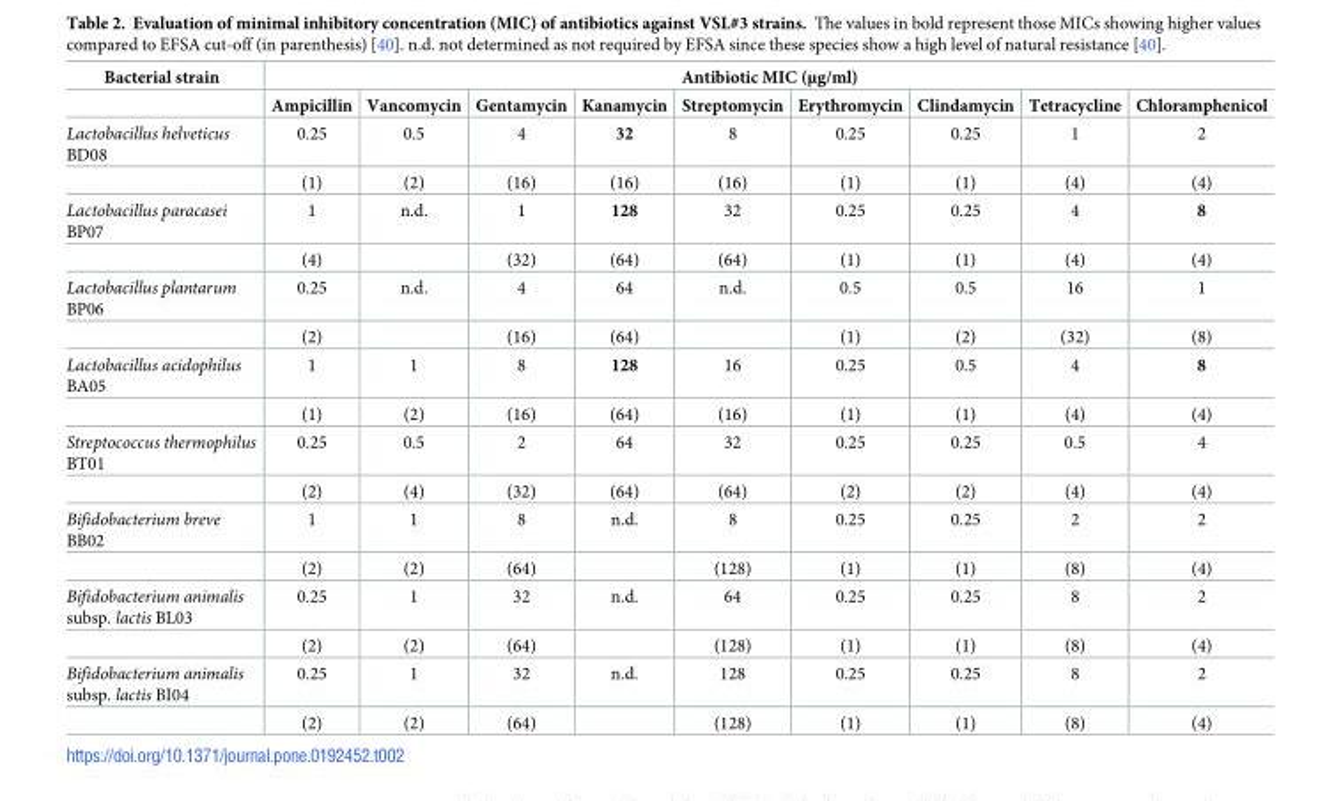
<table><thead><tr><td rowspan="2">Bacterial strain</td><td colspan="9">Antibiotic MIC (μg/ml)</td></tr><tr><td>Ampicillin</td><td>Vancomycin</td><td>Gentamycin</td><td>Kanamycin</td><td>Streptomycin</td><td>Erythromycin</td><td>Clindamycin</td><td>Tetracycline</td><td>Chloramphenicol</td></tr></thead><tbody><tr><td rowspan="2">Lactobacillus helveticus BD08</td><td>0.25</td><td>0.5</td><td>4</td><td>32</td><td>8</td><td>0.25</td><td>0.25</td><td>1</td><td>2</td></tr><tr><td>(1)</td><td>(2)</td><td>(16)</td><td>(16)</td><td>(16)</td><td>(1)</td><td>(1)</td><td>(4)</td><td>(4)</td></tr><tr><td rowspan="2">Lactobacillus paracasei BP07</td><td>1</td><td>n.d.</td><td>1</td><td>128</td><td>32</td><td>0.25</td><td>0.25</td><td>4</td><td>8</td></tr><tr><td>(4)</td><td></td><td>(32)</td><td>(64)</td><td>(64)</td><td>(1)</td><td>(1)</td><td>(4)</td><td>(4)</td></tr><tr><td rowspan="2">Lactobacillus plantarum BP06</td><td>0.25</td><td>n.d.</td><td>4</td><td>64</td><td>n.d.</td><td>0.5</td><td>0.5</td><td>16</td><td>1</td></tr><tr><td>(2)</td><td></td><td>(16)</td><td>(64)</td><td></td><td>(1)</td><td>(2)</td><td>(32)</td><td>(8)</td></tr><tr><td rowspan="2">Lactobacillus acidophilus BA05</td><td>1</td><td>1</td><td>8</td><td>128</td><td>16</td><td>0.25</td><td>0.5</td><td>4</td><td>8</td></tr><tr><td>(1)</td><td>(2)</td><td>(16)</td><td>(64)</td><td>(16)</td><td>(1)</td><td>(1)</td><td>(4)</td><td>(4)</td></tr><tr><td rowspan="2">Streptococcus thermophilus BT01</td><td>0.25</td><td>0.5</td><td>2</td><td>64</td><td>32</td><td>0.25</td><td>0.25</td><td>0.5</td><td>4</td></tr><tr><td>(2)</td><td>(4)</td><td>(32)</td><td>(64)</td><td>(64)</td><td>(2)</td><td>(2)</td><td>(4)</td><td>(4)</td></tr><tr><td rowspan="2">Bifidobacterium breve BB02</td><td>1</td><td>1</td><td>8</td><td>n.d.</td><td>8</td><td>0.25</td><td>0.25</td><td>2</td><td>2</td></tr><tr><td>(2)</td><td>(2)</td><td>(64)</td><td></td><td>(128)</td><td>(1)</td><td>(1)</td><td>(8)</td><td>(4)</td></tr><tr><td rowspan="2">Bifidobacterium animalis subsp. lactis BL03</td><td>0.25</td><td>1</td><td>32</td><td>n.d.</td><td>64</td><td>0.25</td><td>0.25</td><td>8</td><td>2</td></tr><tr><td>(2)</td><td>(2)</td><td>(64)</td><td></td><td>(128)</td><td>(1)</td><td>(1)</td><td>(8)</td><td>(4)</td></tr><tr><td rowspan="2">Bifidobacterium animalis subsp. lactis BI04</td><td>0.25</td><td>1</td><td>32</td><td>n.d.</td><td>128</td><td>0.25</td><td>0.25</td><td>8</td><td>2</td></tr><tr><td>(2)</td><td>(2)</td><td>(64)</td><td></td><td>(128)</td><td>(1)</td><td>(1)</td><td>(8)</td><td>(4)</td></tr></tbody></table>